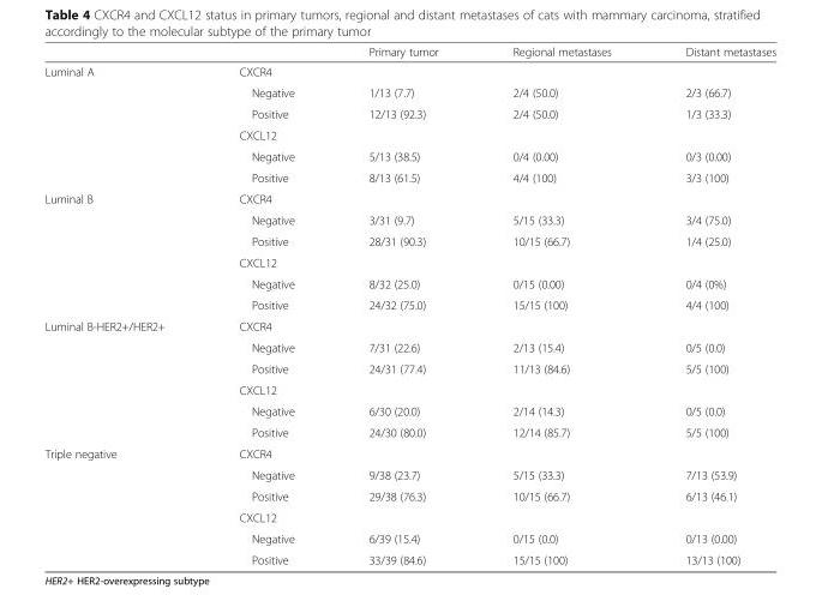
<table><thead><tr><td></td><td></td><td>Primary tumor</td><td>Regional metastases</td><td>Distant metastases</td></tr></thead><tbody><tr><td rowspan="6">Luminal A</td><td colspan="4">CXCR4</td></tr><tr><td>Negative</td><td>1/13 (7.7)</td><td>2/4 (50.0)</td><td>2/3 (66.7)</td></tr><tr><td>Positive</td><td>12/13 (92.3)</td><td>2/4 (50.0)</td><td>1/3 (33.3)</td></tr><tr><td colspan="4">CXCL12</td></tr><tr><td>Negative</td><td>5/13 (38.5)</td><td>0/4 (0.00)</td><td>0/3 (0.00)</td></tr><tr><td>Positive</td><td>8/13 (61.5)</td><td>4/4 (100)</td><td>3/3 (100)</td></tr><tr><td rowspan="6">Luminal B</td><td colspan="4">CXCR4</td></tr><tr><td>Negative</td><td>3/31 (9.7)</td><td>5/15 (33.3)</td><td>3/4 (75.0)</td></tr><tr><td>Positive</td><td>28/31 (90.3)</td><td>10/15 (66.7)</td><td>1/4 (25.0)</td></tr><tr><td colspan="4">CXCL12</td></tr><tr><td>Negative</td><td>8/32 (25.0)</td><td>0/15 (0.00)</td><td>0/4 (0%)</td></tr><tr><td>Positive</td><td>24/32 (75.0)</td><td>15/15 (100)</td><td>4/4 (100)</td></tr><tr><td rowspan="6">Luminal B-HER2+/HER2+</td><td colspan="4">CXCR4</td></tr><tr><td>Negative</td><td>7/31 (22.6)</td><td>2/13 (15.4)</td><td>0/5 (0.0)</td></tr><tr><td>Positive</td><td>24/31 (77.4)</td><td>11/13 (84.6)</td><td>5/5 (100)</td></tr><tr><td colspan="4">CXCL12</td></tr><tr><td>Negative</td><td>6/30 (20.0)</td><td>2/14 (14.3)</td><td>0/5 (0.0)</td></tr><tr><td>Positive</td><td>24/30 (80.0)</td><td>12/14 (85.7)</td><td>5/5 (100)</td></tr><tr><td rowspan="6">Triple negative</td><td colspan="4">CXCR4</td></tr><tr><td>Negative</td><td>9/38 (23.7)</td><td>5/15 (33.3)</td><td>7/13 (53.9)</td></tr><tr><td>Positive</td><td>29/38 (76.3)</td><td>10/15 (66.7)</td><td>6/13 (46.1)</td></tr><tr><td colspan="4">CXCL12</td></tr><tr><td>Negative</td><td>6/39 (15.4)</td><td>0/15 (0.0)</td><td>0/13 (0.00)</td></tr><tr><td>Positive</td><td>33/39 (84.6)</td><td>15/15 (100)</td><td>13/13 (100)</td></tr></tbody></table>